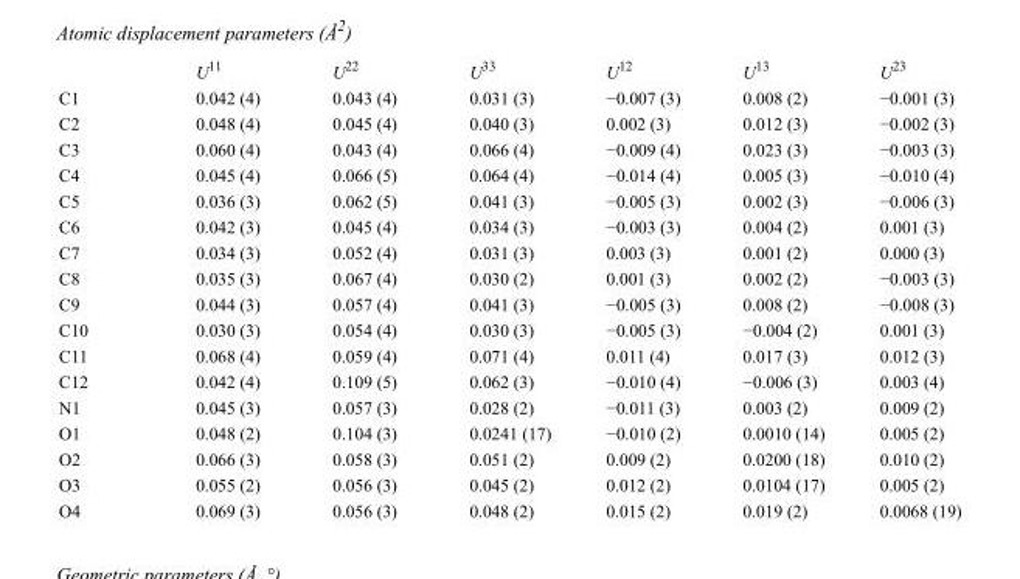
<table><thead><tr><td></td><td>U<sup>11</sup></td><td>U<sup>22</sup></td><td>U<sup>33</sup></td><td>U<sup>12</sup></td><td>U<sup>13</sup></td><td>U<sup>23</sup></td></tr></thead><tbody><tr><td>C1</td><td>0.042 (4)</td><td>0.043 (4)</td><td>0.031 (3)</td><td>−0.007 (3)</td><td>0.008 (2)</td><td>−0.001 (3)</td></tr><tr><td>C2</td><td>0.048 (4)</td><td>0.045 (4)</td><td>0.040 (3)</td><td>0.002 (3)</td><td>0.012 (3)</td><td>−0.002 (3)</td></tr><tr><td>C3</td><td>0.060 (4)</td><td>0.043 (4)</td><td>0.066 (4)</td><td>−0.009 (4)</td><td>0.023 (3)</td><td>−0.003 (3)</td></tr><tr><td>C4</td><td>0.045 (4)</td><td>0.066 (5)</td><td>0.064 (4)</td><td>−0.014 (4)</td><td>0.005 (3)</td><td>−0.010 (4)</td></tr><tr><td>C5</td><td>0.036 (3)</td><td>0.062 (5)</td><td>0.041 (3)</td><td>−0.005 (3)</td><td>0.002 (3)</td><td>−0.006 (3)</td></tr><tr><td>C6</td><td>0.042 (3)</td><td>0.045 (4)</td><td>0.034 (3)</td><td>−0.003 (3)</td><td>0.004 (2)</td><td>0.001 (3)</td></tr><tr><td>C7</td><td>0.034 (3)</td><td>0.052 (4)</td><td>0.031 (3)</td><td>0.003 (3)</td><td>0.001 (2)</td><td>0.000 (3)</td></tr><tr><td>C8</td><td>0.035 (3)</td><td>0.067 (4)</td><td>0.030 (2)</td><td>0.001 (3)</td><td>0.002 (2)</td><td>−0.003 (3)</td></tr><tr><td>C9</td><td>0.044 (3)</td><td>0.057 (4)</td><td>0.041 (3)</td><td>−0.005 (3)</td><td>0.008 (2)</td><td>−0.008 (3)</td></tr><tr><td>C10</td><td>0.030 (3)</td><td>0.054 (4)</td><td>0.030 (3)</td><td>−0.005 (3)</td><td>−0.004 (2)</td><td>0.001 (3)</td></tr><tr><td>C11</td><td>0.068 (4)</td><td>0.059 (4)</td><td>0.071 (4)</td><td>0.011 (4)</td><td>0.017 (3)</td><td>0.012 (3)</td></tr><tr><td>C12</td><td>0.042 (4)</td><td>0.109 (5)</td><td>0.062 (3)</td><td>−0.010 (4)</td><td>−0.006 (3)</td><td>0.003 (4)</td></tr><tr><td>N1</td><td>0.045 (3)</td><td>0.057 (3)</td><td>0.028 (2)</td><td>−0.011 (3)</td><td>0.003 (2)</td><td>0.009 (2)</td></tr><tr><td>O1</td><td>0.048 (2)</td><td>0.104 (3)</td><td>0.0241 (17)</td><td>−0.010 (2)</td><td>0.0010 (14)</td><td>0.005 (2)</td></tr><tr><td>O2</td><td>0.066 (3)</td><td>0.058 (3)</td><td>0.051 (2)</td><td>0.009 (2)</td><td>0.0200 (18)</td><td>0.010 (2)</td></tr><tr><td>O3</td><td>0.055 (2)</td><td>0.056 (3)</td><td>0.045 (2)</td><td>0.012 (2)</td><td>0.0104 (17)</td><td>0.005 (2)</td></tr><tr><td>O4</td><td>0.069 (3)</td><td>0.056 (3)</td><td>0.048 (2)</td><td>0.015 (2)</td><td>0.019 (2)</td><td>0.0068 (19)</td></tr></tbody></table>